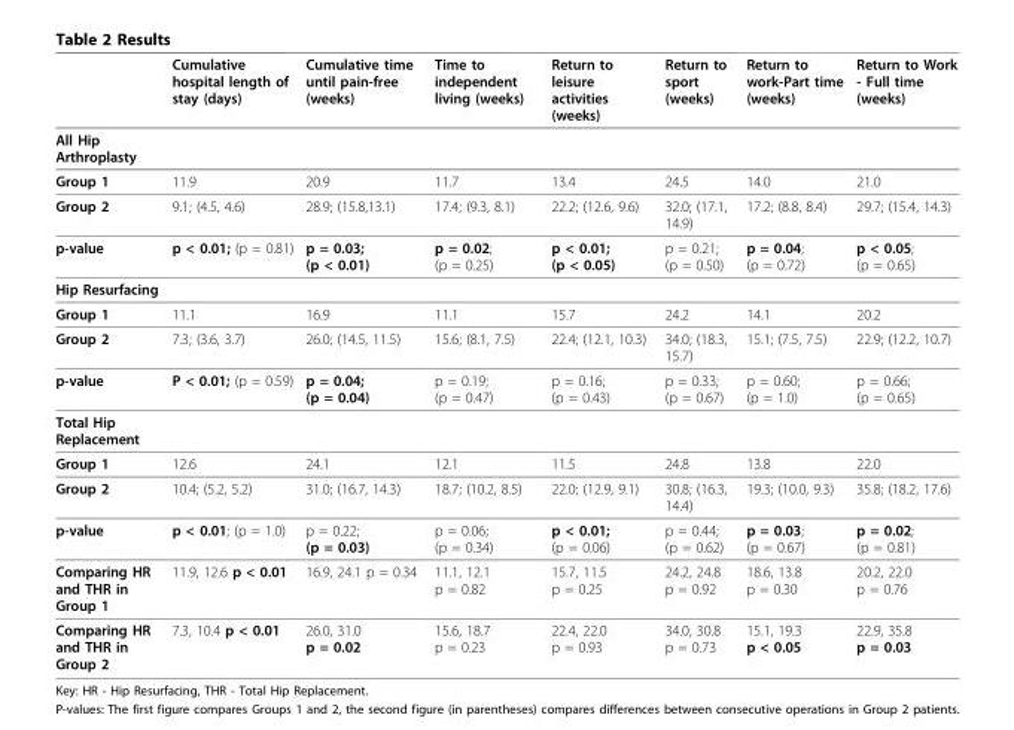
<table><thead><tr><td></td><td>Cumulative hospital length of stay (days)</td><td>Cumulative time until pain-free (weeks)</td><td>Time to independent living (weeks)</td><td>Return to leisure activities (weeks)</td><td>Return to sport (weeks)</td><td>Return to work-Part time (weeks)</td><td>Return to Work - Full time (weeks)</td></tr></thead><tbody><tr><td colspan="8">All Hip Arthroplasty</td></tr><tr><td>Group 1</td><td>11.9</td><td>20.9</td><td>11.7</td><td>13.4</td><td>24.5</td><td>14.0</td><td>21.0</td></tr><tr><td>Group 2</td><td>9.1; (4.5, 4.6)</td><td>28.9; (15.8,13.1)</td><td>17.4; (9.3, 8.1)</td><td>22.2; (12.6, 9.6)</td><td>32.0; (17.1, 14.9)</td><td>17.2; (8.8, 8.4)</td><td>29.7; (15.4, 14.3)</td></tr><tr><td>p-value</td><td>p &lt; 0.01; (p = 0.81)</td><td>p = 0.03; (p &lt; 0.01)</td><td>p = 0.02; (p = 0.25)</td><td>p &lt; 0.01; (p &lt; 0.05)</td><td>p = 0.21; (p = 0.50)</td><td>p = 0.04; (p = 0.72)</td><td>p &lt; 0.05; (p = 0.65)</td></tr><tr><td colspan="8">Hip Resurfacing</td></tr><tr><td>Group 1</td><td>11.1</td><td>16.9</td><td>11.1</td><td>15.7</td><td>24.2</td><td>14.1</td><td>20.2</td></tr><tr><td>Group 2</td><td>7.3; (3.6, 3.7)</td><td>26.0; (14.5, 11.5)</td><td>15.6; (8.1, 7.5)</td><td>22.4; (12.1, 10.3)</td><td>34.0; (18.3, 15.7)</td><td>15.1; (7.5, 7.5)</td><td>22.9; (12.2, 10.7)</td></tr><tr><td>p-value</td><td>P &lt; 0.01; (p = 0.59)</td><td>p = 0.04; (p = 0.04)</td><td>p = 0.19; (p = 0.47)</td><td>p = 0.16; (p = 0.43)</td><td>p = 0.33; (p = 0.67)</td><td>p = 0.60; (p = 1.0)</td><td>p = 0.66; (p = 0.65)</td></tr><tr><td colspan="8">Total Hip Replacement</td></tr><tr><td>Group 1</td><td>12.6</td><td>24.1</td><td>12.1</td><td>11.5</td><td>24.8</td><td>13.8</td><td>22.0</td></tr><tr><td>Group 2</td><td>10.4; (5.2, 5.2)</td><td>31.0; (16.7, 14.3)</td><td>18.7; (10.2, 8.5)</td><td>22.0; (12.9, 9.1)</td><td>30.8; (16.3, 14.4)</td><td>19.3; (10.0, 9.3)</td><td>35.8; (18.2, 17.6)</td></tr><tr><td>p-value</td><td>p &lt; 0.01; (p = 1.0)</td><td>p = 0.22; (p = 0.03)</td><td>p = 0.06; (p = 0.34)</td><td>p &lt; 0.01; (p = 0.06)</td><td>p = 0.44; (p = 0.62)</td><td>p = 0.03; (p = 0.67)</td><td>p = 0.02; (p = 0.81)</td></tr><tr><td>Comparing HR and THR in Group 1</td><td>11.9, 12.6 p &lt; 0.01</td><td>16.9, 24.1 p = 0.34</td><td>11.1, 12.1 p = 0.82</td><td>15.7, 11.5 p = 0.25</td><td>24.2, 24.8 p = 0.92</td><td>18.6, 13.8 p = 0.30</td><td>20.2, 22.0 p = 0.76</td></tr><tr><td>Comparing HR and THR in Group 2</td><td>7.3, 10.4 p &lt; 0.01</td><td>26.0, 31.0 p = 0.02</td><td>15.6, 18.7 p = 0.23</td><td>22.4, 22.0 p = 0.93</td><td>34.0, 30.8 p = 0.73</td><td>15.1, 19.3 p &lt; 0.05</td><td>22.9, 35.8 p = 0.03</td></tr></tbody></table>